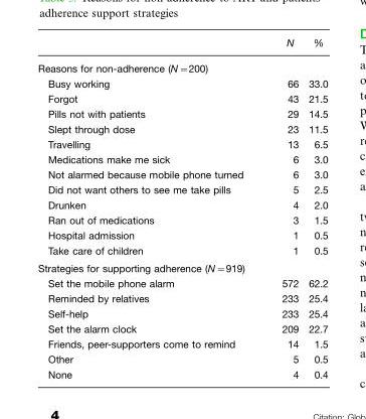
<table><thead><tr><td></td><td>N</td><td>%</td></tr></thead><tbody><tr><td colspan="3">Reasons for non-adherence (N=200)</td></tr><tr><td>Busy working</td><td>66</td><td>33.0</td></tr><tr><td>Forgot</td><td>43</td><td>21.5</td></tr><tr><td>Pills not with patients</td><td>29</td><td>14.5</td></tr><tr><td>Slept through dose</td><td>23</td><td>11.5</td></tr><tr><td>Travelling</td><td>13</td><td>6.5</td></tr><tr><td>Medications make me sick</td><td>6</td><td>3.0</td></tr><tr><td>Not alarmed because mobile phone turned</td><td>6</td><td>3.0</td></tr><tr><td>Did not want others to see me take pills</td><td>5</td><td>2.5</td></tr><tr><td>Drunken</td><td>4</td><td>2.0</td></tr><tr><td>Ran out of medications</td><td>3</td><td>1.5</td></tr><tr><td>Hospital admission</td><td>1</td><td>0.5</td></tr><tr><td>Take care of children</td><td>1</td><td>0.5</td></tr><tr><td colspan="3">Strategies for supporting adherence (N=919)</td></tr><tr><td>Set the mobile phone alarm</td><td>572</td><td>62.2</td></tr><tr><td>Reminded by relatives</td><td>233</td><td>25.4</td></tr><tr><td>Self-help</td><td>233</td><td>25.4</td></tr><tr><td>Set the alarm clock</td><td>209</td><td>22.7</td></tr><tr><td>Friends, peer-supporters come to remind</td><td>14</td><td>1.5</td></tr><tr><td>Other</td><td>5</td><td>0.5</td></tr><tr><td>None</td><td>4</td><td>0.4</td></tr></tbody></table>